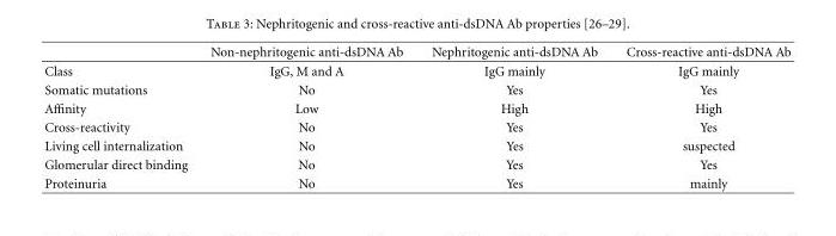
<table><thead><tr><td></td><td>Non-nephritogenic anti-dsDNA Ab</td><td>Nephritogenic anti-dsDNA Ab</td><td>Cross-reactive anti-dsDNA Ab</td></tr></thead><tbody><tr><td>Class</td><td>IgG, M and A</td><td>IgG mainly</td><td>IgG mainly</td></tr><tr><td>Somatic mutations</td><td>No</td><td>Yes</td><td>Yes</td></tr><tr><td>Affinity</td><td>Low</td><td>High</td><td>High</td></tr><tr><td>Cross-reactivity</td><td>No</td><td>Yes</td><td>Yes</td></tr><tr><td>Living cell internalization</td><td>No</td><td>Yes</td><td>suspected</td></tr><tr><td>Glomerular direct binding</td><td>No</td><td>Yes</td><td>Yes</td></tr><tr><td>Proteinuria</td><td>No</td><td>Yes</td><td>mainly</td></tr></tbody></table>